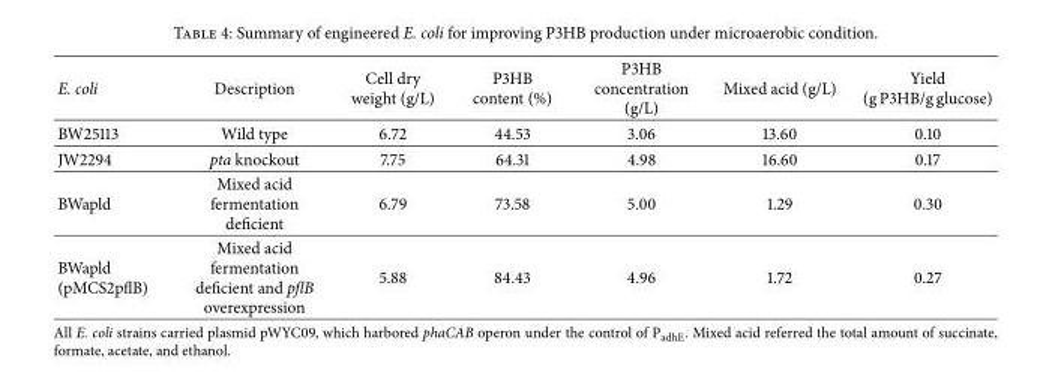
<table><tbody><tr><td>E. coli</td><td>Description</td><td>Cell dry weight (g/L)</td><td>P3HB content (%)</td><td>P3HB concentration (g/L)</td><td>Mixed acid (g/L)</td><td>Yield (g P3HB/g glucose)</td></tr><tr><td>BW25113</td><td>Wild type</td><td>6.72</td><td>44.53</td><td>3.06</td><td>13.60</td><td>0.10</td></tr><tr><td>JW2294</td><td>pta knockout</td><td>7.75</td><td>64.31</td><td>4.98</td><td>16.60</td><td>0.17</td></tr><tr><td>BWapld</td><td>Mixed acid fermentation deficient</td><td>6.79</td><td>73.58</td><td>5.00</td><td>1.29</td><td>0.30</td></tr><tr><td>BWapld (pMCS2pflB)</td><td>Mixed acid fermentation deficient and pflB overexpression</td><td>5.88</td><td>84.43</td><td>4.96</td><td>1.72</td><td>0.27</td></tr></tbody></table>